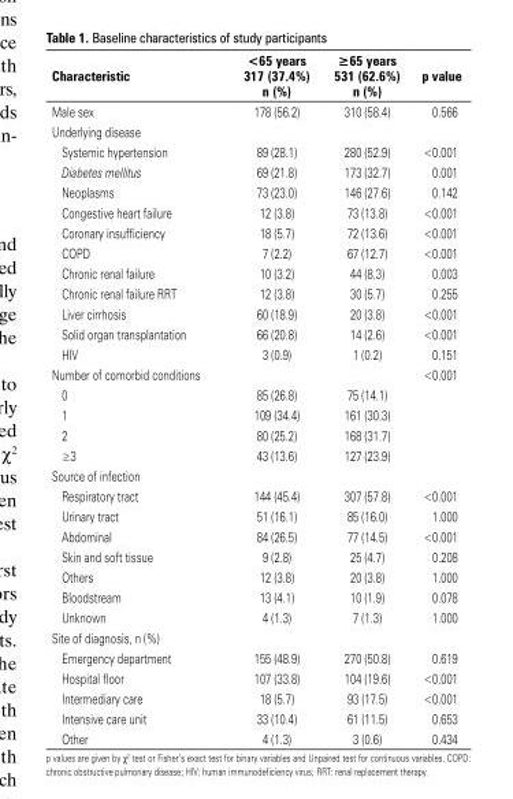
<table><thead><tr><td>Characteristic</td><td>&lt;65 years 317 (37.4%) n (%)</td><td>≥65 years 531 (62.6%) n (%)</td><td>p value</td></tr></thead><tbody><tr><td>Male sex</td><td>178 (56.2)</td><td>310 (58.4)</td><td>0.566</td></tr><tr><td colspan="4">Underlying disease</td></tr><tr><td>Systemic hypertension</td><td>89 (28.1)</td><td>280 (52.9)</td><td>&lt;0.001</td></tr><tr><td>Diabetes mellitus</td><td>69 (21.8)</td><td>173 (32.7)</td><td>0.001</td></tr><tr><td>Neoplasms</td><td>73 (23.0)</td><td>146 (27.6)</td><td>0.142</td></tr><tr><td>Congestive heart failure</td><td>12 (3.8)</td><td>73 (13.8)</td><td>&lt;0.001</td></tr><tr><td>Coronary insufficiency</td><td>18 (5.7)</td><td>72 (13.6)</td><td>&lt;0.001</td></tr><tr><td>COPD</td><td>7 (2.2)</td><td>67 (12.7)</td><td>&lt;0.001</td></tr><tr><td>Chronic renal failure</td><td>10 (3.2)</td><td>44 (8.3)</td><td>0.003</td></tr><tr><td>Chronic renal failure RRT</td><td>12 (3.8)</td><td>30 (5.7)</td><td>0.255</td></tr><tr><td>Liver cirrhosis</td><td>60 (18.9)</td><td>20 (3.8)</td><td>&lt;0.001</td></tr><tr><td>Solid organ transplantation</td><td>66 (20.8)</td><td>14 (2.6)</td><td>&lt;0.001</td></tr><tr><td>HIV</td><td>3 (0.9)</td><td>1 (0.2)</td><td>0.151</td></tr><tr><td>Number of comorbid conditions</td><td></td><td></td><td>&lt;0.001</td></tr><tr><td>0</td><td>85 (26.8)</td><td>75 (14.1)</td><td></td></tr><tr><td>1</td><td>109 (34.4)</td><td>161 (30.3)</td><td></td></tr><tr><td>2</td><td>80 (25.2)</td><td>168 (31.7)</td><td></td></tr><tr><td>≥3</td><td>43 (13.6)</td><td>127 (23.9)</td><td></td></tr><tr><td colspan="4">Source of infection</td></tr><tr><td>Respiratory tract</td><td>144 (45.4)</td><td>307 (57.8)</td><td>&lt;0.001</td></tr><tr><td>Urinary tract</td><td>51 (16.1)</td><td>85 (16.0)</td><td>1.000</td></tr><tr><td>Abdominal</td><td>84 (26.5)</td><td>77 (14.5)</td><td>&lt;0.001</td></tr><tr><td>Skin and soft tissue</td><td>9 (2.8)</td><td>25 (4.7)</td><td>0.208</td></tr><tr><td>Others</td><td>12 (3.8)</td><td>20 (3.8)</td><td>1.000</td></tr><tr><td>Bloodstream</td><td>13 (4.1)</td><td>10 (1.9)</td><td>0.078</td></tr><tr><td>Unknown</td><td>4 (1.3)</td><td>7 (1.3)</td><td>1.000</td></tr><tr><td colspan="4">Site of diagnosis, n (%)</td></tr><tr><td>Emergency department</td><td>155 (48.9)</td><td>270 (50.8)</td><td>0.619</td></tr><tr><td>Hospital floor</td><td>107 (33.8)</td><td>104 (19.6)</td><td>&lt;0.001</td></tr><tr><td>Intermediary care</td><td>18 (5.7)</td><td>93 (17.5)</td><td>&lt;0.001</td></tr><tr><td>Intensive care unit</td><td>33 (10.4)</td><td>61 (11.5)</td><td>0.653</td></tr><tr><td>Other</td><td>4 (1.3)</td><td>3 (0.6)</td><td>0.434</td></tr></tbody></table>